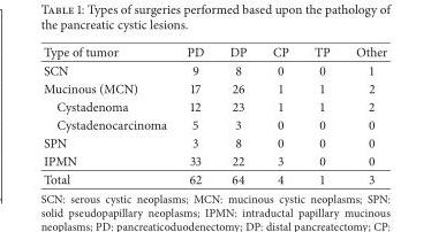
<table><thead><tr><td>Type of tumor</td><td>PD</td><td>DP</td><td>CP</td><td>TP</td><td>Other</td></tr></thead><tbody><tr><td>SCN</td><td>9</td><td>8</td><td>0</td><td>0</td><td>1</td></tr><tr><td>Mucinous (MCN)</td><td>17</td><td>26</td><td>1</td><td>1</td><td>2</td></tr><tr><td>Cystadenoma</td><td>12</td><td>23</td><td>1</td><td>1</td><td>2</td></tr><tr><td>Cystadenocarcinoma</td><td>5</td><td>3</td><td>0</td><td>0</td><td>0</td></tr><tr><td>SPN</td><td>3</td><td>8</td><td>0</td><td>0</td><td>0</td></tr><tr><td>IPMN</td><td>33</td><td>22</td><td>3</td><td>0</td><td>0</td></tr><tr><td>Total</td><td>62</td><td>64</td><td>4</td><td>1</td><td>3</td></tr></tbody></table>